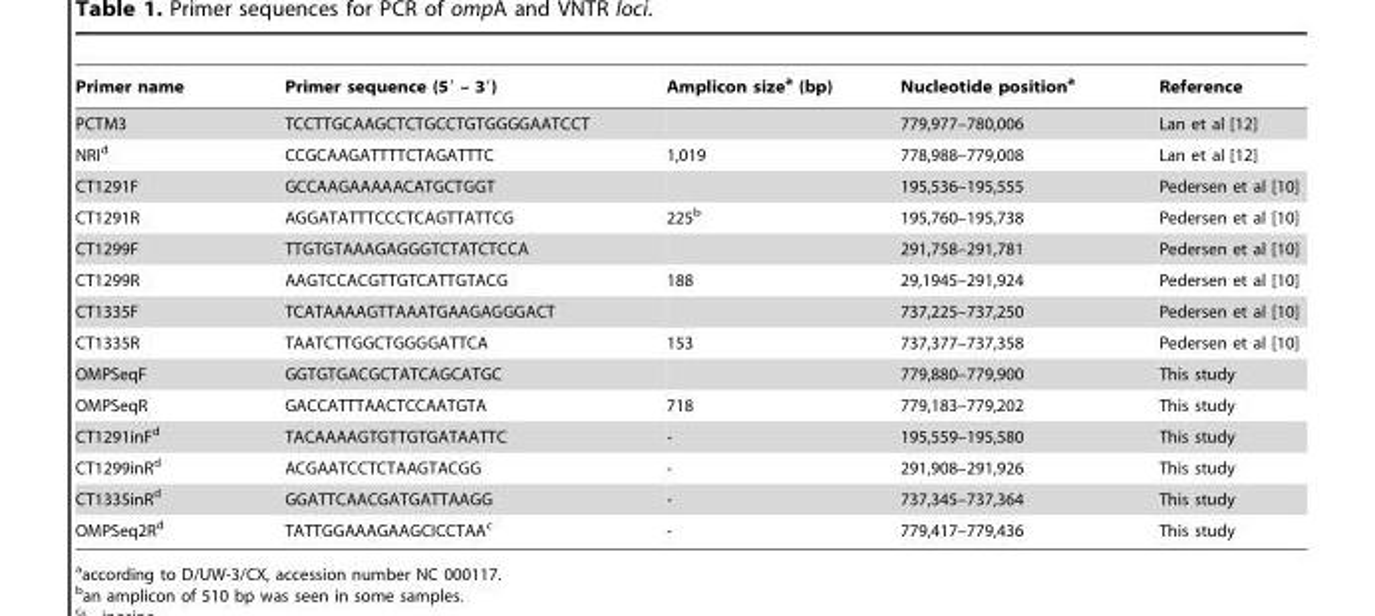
<table><thead><tr><td>Primer name</td><td>Primer sequence (5′ – 3′)</td><td>Amplicon size<sup>a</sup> (bp)</td><td>Nucleotide position<sup>a</sup></td><td>Reference</td></tr></thead><tbody><tr><td>PCTM3</td><td>TCCTTGCAAGCTCTGCCTGTGGGGAATCCT</td><td></td><td>779,977–780,006</td><td>Lan et al [12]</td></tr><tr><td>NRI<sup>d</sup></td><td>CCGCAAGATTTTCTAGATTTC</td><td>1,019</td><td>778,988–779,008</td><td>Lan et al [12]</td></tr><tr><td>CT1291F</td><td>GCCAAGAAAAACATGCTGGT</td><td></td><td>195,536–195,555</td><td>Pedersen et al [10]</td></tr><tr><td>CT1291R</td><td>AGGATATTTCCCTCAGTTATTCG</td><td>225<sup>b</sup></td><td>195,760–195,738</td><td>Pedersen et al [10]</td></tr><tr><td>CT1299F</td><td>TTGTGTAAAGAGGGTCTATCTCCA</td><td></td><td>291,758–291,781</td><td>Pedersen et al [10]</td></tr><tr><td>CT1299R</td><td>AAGTCCACGTTGTCATTGTACG</td><td>188</td><td>29,1945–291,924</td><td>Pedersen et al [10]</td></tr><tr><td>CT1335F</td><td>TCATAAAAGTTAAATGAAGAGGGACT</td><td></td><td>737,225–737,250</td><td>Pedersen et al [10]</td></tr><tr><td>CT1335R</td><td>TAATCTTGGCTGGGGATTCA</td><td>153</td><td>737,377–737,358</td><td>Pedersen et al [10]</td></tr><tr><td>OMPSeqF</td><td>GGTGTGACGCTATCAGCATGC</td><td></td><td>779,880–779,900</td><td>This study</td></tr><tr><td>OMPSeqR</td><td>GACCATTTAACTCCAATGTA</td><td>718</td><td>779,183–779,202</td><td>This study</td></tr><tr><td>CT1291inF<sup>d</sup></td><td>TACAAAAGTGTTGTGATAATTC</td><td>-</td><td>195,559–195,580</td><td>This study</td></tr><tr><td>CT1299inR<sup>d</sup></td><td>ACGAATCCTCTAAGTACGG</td><td>-</td><td>291,908–291,926</td><td>This study</td></tr><tr><td>CT1335inR<sup>d</sup></td><td>GGATTCAACGATGATTAAGG</td><td>-</td><td>737,345–737,364</td><td>This study</td></tr><tr><td>OMPSeq2R<sup>d</sup></td><td>TATTGGAAAGAAGCICCTAAc</td><td>-</td><td>779,417–779,436</td><td>This study</td></tr></tbody></table>